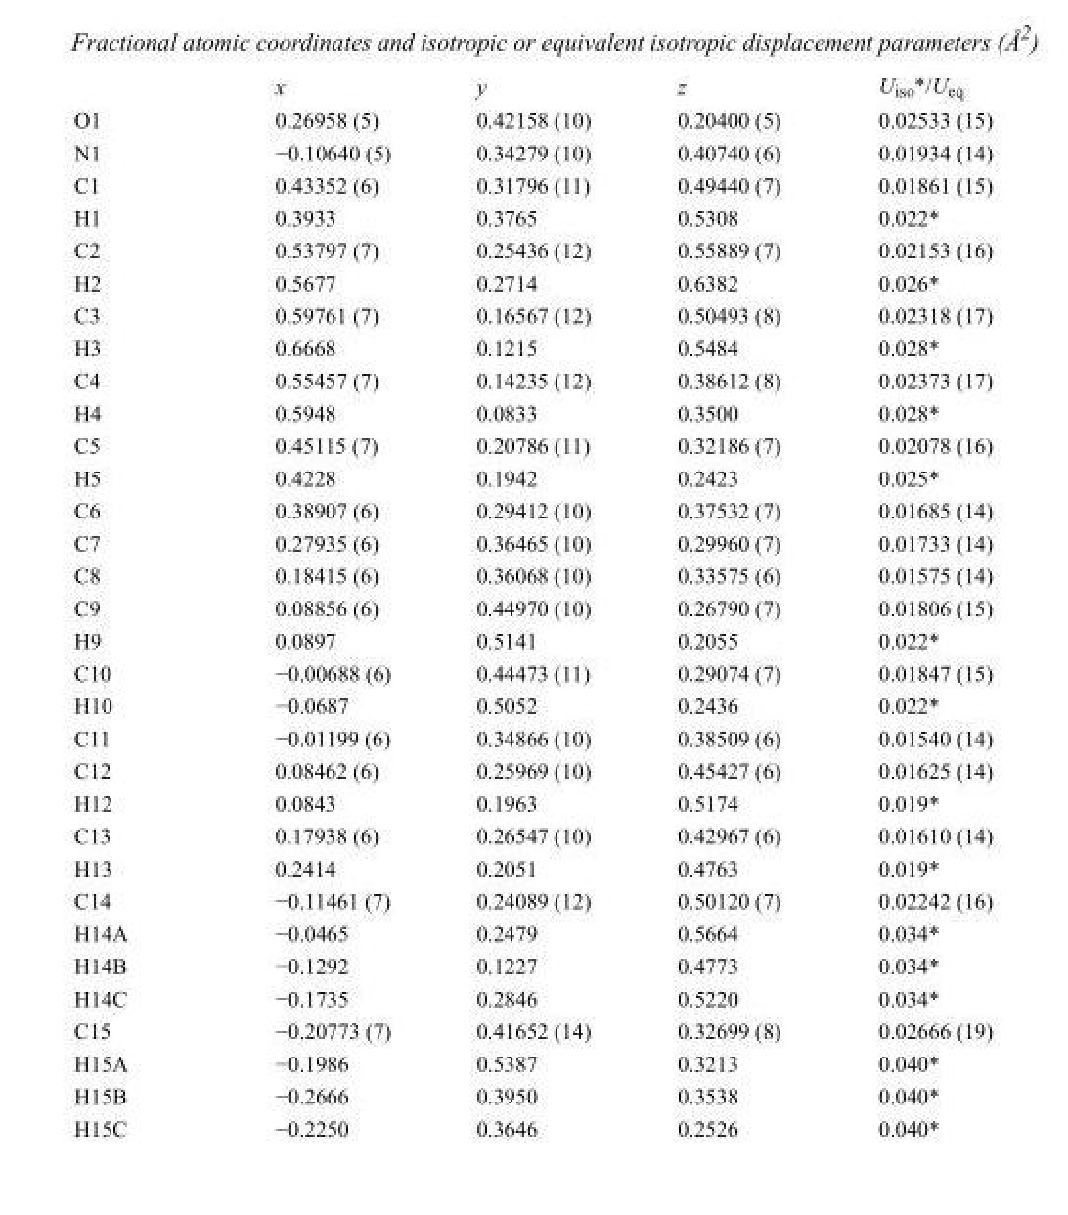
<table><thead><tr><td></td><td>x</td><td>y</td><td>z</td><td>U<sub>iso</sub>*/U<sub>eq</sub></td></tr></thead><tbody><tr><td>O1</td><td>0.26958 (5)</td><td>0.42158 (10)</td><td>0.20400 (5)</td><td>0.02533 (15)</td></tr><tr><td>N1</td><td>−0.10640 (5)</td><td>0.34279 (10)</td><td>0.40740 (6)</td><td>0.01934 (14)</td></tr><tr><td>C1</td><td>0.43352 (6)</td><td>0.31796 (11)</td><td>0.49440 (7)</td><td>0.01861 (15)</td></tr><tr><td>H1</td><td>0.3933</td><td>0.3765</td><td>0.5308</td><td>0.022*</td></tr><tr><td>C2</td><td>0.53797 (7)</td><td>0.25436 (12)</td><td>0.55889 (7)</td><td>0.02153 (16)</td></tr><tr><td>H2</td><td>0.5677</td><td>0.2714</td><td>0.6382</td><td>0.026*</td></tr><tr><td>C3</td><td>0.59761 (7)</td><td>0.16567 (12)</td><td>0.50493 (8)</td><td>0.02318 (17)</td></tr><tr><td>H3</td><td>0.6668</td><td>0.1215</td><td>0.5484</td><td>0.028*</td></tr><tr><td>C4</td><td>0.55457 (7)</td><td>0.14235 (12)</td><td>0.38612 (8)</td><td>0.02373 (17)</td></tr><tr><td>H4</td><td>0.5948</td><td>0.0833</td><td>0.3500</td><td>0.028*</td></tr><tr><td>C5</td><td>0.45115 (7)</td><td>0.20786 (11)</td><td>0.32186 (7)</td><td>0.02078 (16)</td></tr><tr><td>H5</td><td>0.4228</td><td>0.1942</td><td>0.2423</td><td>0.025*</td></tr><tr><td>C6</td><td>0.38907 (6)</td><td>0.29412 (10)</td><td>0.37532 (7)</td><td>0.01685 (14)</td></tr><tr><td>C7</td><td>0.27935 (6)</td><td>0.36465 (10)</td><td>0.29960 (7)</td><td>0.01733 (14)</td></tr><tr><td>C8</td><td>0.18415 (6)</td><td>0.36068 (10)</td><td>0.33575 (6)</td><td>0.01575 (14)</td></tr><tr><td>C9</td><td>0.08856 (6)</td><td>0.44970 (10)</td><td>0.26790 (7)</td><td>0.01806 (15)</td></tr><tr><td>H9</td><td>0.0897</td><td>0.5141</td><td>0.2055</td><td>0.022*</td></tr><tr><td>C10</td><td>−0.00688 (6)</td><td>0.44473 (11)</td><td>0.29074 (7)</td><td>0.01847 (15)</td></tr><tr><td>H10</td><td>−0.0687</td><td>0.5052</td><td>0.2436</td><td>0.022*</td></tr><tr><td>C11</td><td>−0.01199 (6)</td><td>0.34866 (10)</td><td>0.38509 (6)</td><td>0.01540 (14)</td></tr><tr><td>C12</td><td>0.08462 (6)</td><td>0.25969 (10)</td><td>0.45427 (6)</td><td>0.01625 (14)</td></tr><tr><td>H12</td><td>0.0843</td><td>0.1963</td><td>0.5174</td><td>0.019*</td></tr><tr><td>C13</td><td>0.17938 (6)</td><td>0.26547 (10)</td><td>0.42967 (6)</td><td>0.01610 (14)</td></tr><tr><td>H13</td><td>0.2414</td><td>0.2051</td><td>0.4763</td><td>0.019*</td></tr><tr><td>C14</td><td>−0.11461 (7)</td><td>0.24089 (12)</td><td>0.50120 (7)</td><td>0.02242 (16)</td></tr><tr><td>H14A</td><td>−0.0465</td><td>0.2479</td><td>0.5664</td><td>0.034*</td></tr><tr><td>H14B</td><td>−0.1292</td><td>0.1227</td><td>0.4773</td><td>0.034*</td></tr><tr><td>H14C</td><td>−0.1735</td><td>0.2846</td><td>0.5220</td><td>0.034*</td></tr><tr><td>C15</td><td>−0.20773 (7)</td><td>0.41652 (14)</td><td>0.32699 (8)</td><td>0.02666 (19)</td></tr><tr><td>H15A</td><td>−0.1986</td><td>0.5387</td><td>0.3213</td><td>0.040*</td></tr><tr><td>H15B</td><td>−0.2666</td><td>0.3950</td><td>0.3538</td><td>0.040*</td></tr><tr><td>H15C</td><td>−0.2250</td><td>0.3646</td><td>0.2526</td><td>0.040*</td></tr></tbody></table>